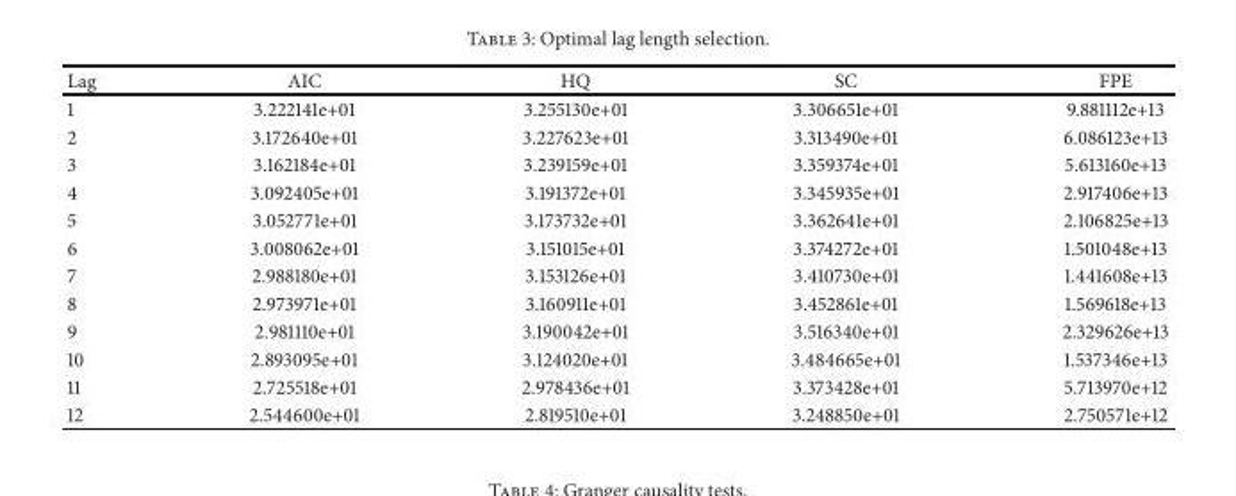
<table><thead><tr><td>Lag</td><td>AIC</td><td>HQ</td><td>SC</td><td>FPE</td></tr></thead><tbody><tr><td>1</td><td>3.222141e+01</td><td>3.255130e+01</td><td>3.306651e+01</td><td>9.881112e+13</td></tr><tr><td>2</td><td>3.172640e+01</td><td>3.227623e+01</td><td>3.313490e+01</td><td>6.086123e+13</td></tr><tr><td>3</td><td>3.162184e+01</td><td>3.239159e+01</td><td>3.359374e+01</td><td>5.613160e+13</td></tr><tr><td>4</td><td>3.092405e+01</td><td>3.191372e+01</td><td>3.345935e+01</td><td>2.917406e+13</td></tr><tr><td>5</td><td>3.052771e+01</td><td>3.173732e+01</td><td>3.362641e+01</td><td>2.106825e+13</td></tr><tr><td>6</td><td>3.008062e+01</td><td>3.151015e+01</td><td>3.374272e+01</td><td>1.501048e+13</td></tr><tr><td>7</td><td>2.988180e+01</td><td>3.153126e+01</td><td>3.410730e+01</td><td>1.441608e+13</td></tr><tr><td>8</td><td>2.973971e+01</td><td>3.160911e+01</td><td>3.452861e+01</td><td>1.569618e+13</td></tr><tr><td>9</td><td>2.981110e+01</td><td>3.190042e+01</td><td>3.516340e+01</td><td>2.329626e+13</td></tr><tr><td>10</td><td>2.893095e+01</td><td>3.124020e+01</td><td>3.484665e+01</td><td>1.537346e+13</td></tr><tr><td>11</td><td>2.725518e+01</td><td>2.978436e+01</td><td>3.373428e+01</td><td>5.713970e+12</td></tr><tr><td>12</td><td>2.544600e+01</td><td>2.819510e+01</td><td>3.248850e+01</td><td>2.750571e+12</td></tr></tbody></table>